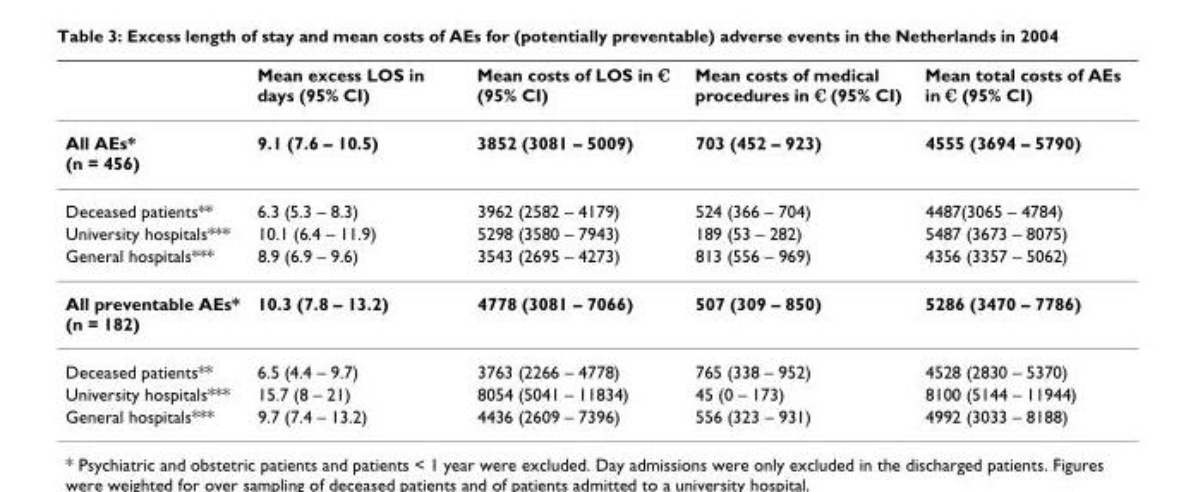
<table><thead><tr><td></td><td>Mean excess LOS in days (95% CI)</td><td>Mean costs of LOS in € (95% CI)</td><td>Mean costs of medical procedures in € (95% CI)</td><td>Mean total costs of AEs in € (95% CI)</td></tr></thead><tbody><tr><td>All AEs* (n = 456)</td><td>9.1 (7.6 – 10.5)</td><td>3852 (3081 – 5009)</td><td>703 (452 – 923)</td><td>4555 (3694 – 5790)</td></tr><tr><td>Deceased patients**</td><td>6.3 (5.3 – 8.3)</td><td>3962 (2582 – 4179)</td><td>524 (366 – 704)</td><td>4487(3065 – 4784)</td></tr><tr><td>University hospitals***</td><td>10.1 (6.4 – 11.9)</td><td>5298 (3580 – 7943)</td><td>189 (53 – 282)</td><td>5487 (3673 – 8075)</td></tr><tr><td>General hospitals***</td><td>8.9 (6.9 – 9.6)</td><td>3543 (2695 – 4273)</td><td>813 (556 – 969)</td><td>4356 (3357 – 5062)</td></tr><tr><td>All preventable AEs* (n = 182)</td><td>10.3 (7.8 – 13.2)</td><td>4778 (3081 – 7066)</td><td>507 (309 – 850)</td><td>5286 (3470 – 7786)</td></tr><tr><td>Deceased patients**</td><td>6.5 (4.4 – 9.7)</td><td>3763 (2266 – 4778)</td><td>765 (338 – 952)</td><td>4528 (2830 – 5370)</td></tr><tr><td>University hospitals***</td><td>15.7 (8 – 21)</td><td>8054 (5041 – 11834)</td><td>45 (0 – 173)</td><td>8100 (5144 – 11944)</td></tr><tr><td>General hospitals***</td><td>9.7 (7.4 – 13.2)</td><td>4436 (2609 – 7396)</td><td>556 (323 – 931)</td><td>4992 (3033 – 8188)</td></tr></tbody></table>